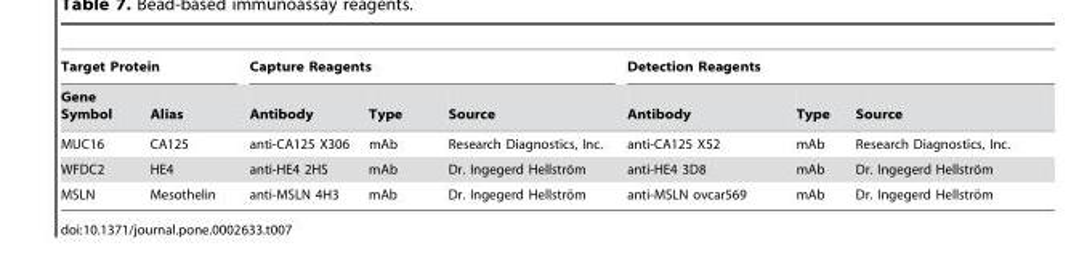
<table><thead><tr><td colspan="2">Target Protein</td><td colspan="3">Capture Reagents</td><td colspan="3">Detection Reagents</td></tr><tr><td>Gene Symbol</td><td>Alias</td><td>Antibody</td><td>Type</td><td>Source</td><td>Antibody</td><td>Type</td><td>Source</td></tr></thead><tbody><tr><td>MUC16</td><td>CA125</td><td>anti-CA125 X306</td><td>mAb</td><td>Research Diagnostics, Inc.</td><td>anti-CA125 X52</td><td>mAb</td><td>Research Diagnostics, Inc.</td></tr><tr><td>WFDC2</td><td>HE4</td><td>anti-HE4 2HS</td><td>mAb</td><td>Dr. Ingegerd Hellstro¨m</td><td>anti-HE4 3D8</td><td>mAb</td><td>Dr. Ingegerd Hellstro¨m</td></tr><tr><td>MSLN</td><td>Mesothelin</td><td>anti-MSLN 4H3</td><td>mAb</td><td>Dr. Ingegerd Hellstro¨m</td><td>anti-MSLN ovcar569</td><td>mAb</td><td>Dr. Ingegerd Hellstro¨m</td></tr></tbody></table>